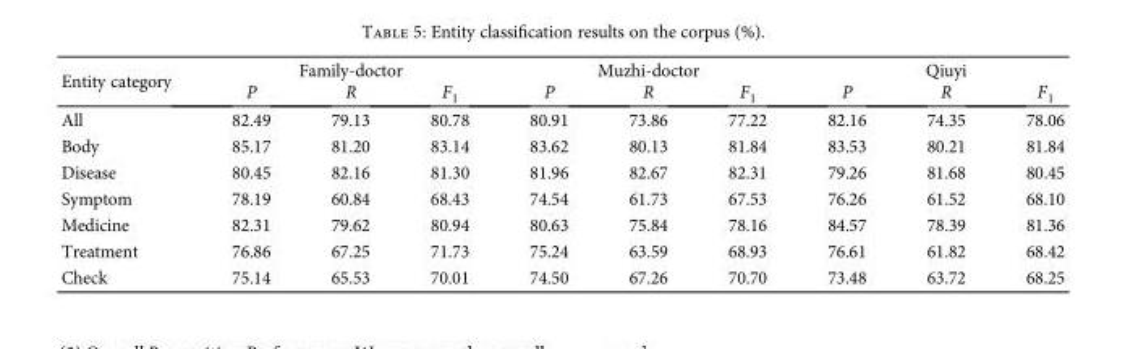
<table><thead><tr><td rowspan="2">Entity category</td><td colspan="3">Family-doctor</td><td colspan="3">Muzhi-doctor</td><td colspan="3">Qiuyi</td></tr><tr><td>P</td><td>R</td><td>F<sub>1</sub></td><td>P</td><td>R</td><td>F<sub>1</sub></td><td>P</td><td>R</td><td>F<sub>1</sub></td></tr></thead><tbody><tr><td>All</td><td>82.49</td><td>79.13</td><td>80.78</td><td>80.91</td><td>73.86</td><td>77.22</td><td>82.16</td><td>74.35</td><td>78.06</td></tr><tr><td>Body</td><td>85.17</td><td>81.20</td><td>83.14</td><td>83.62</td><td>80.13</td><td>81.84</td><td>83.53</td><td>80.21</td><td>81.84</td></tr><tr><td>Disease</td><td>80.45</td><td>82.16</td><td>81.30</td><td>81.96</td><td>82.67</td><td>82.31</td><td>79.26</td><td>81.68</td><td>80.45</td></tr><tr><td>Symptom</td><td>78.19</td><td>60.84</td><td>68.43</td><td>74.54</td><td>61.73</td><td>67.53</td><td>76.26</td><td>61.52</td><td>68.10</td></tr><tr><td>Medicine</td><td>82.31</td><td>79.62</td><td>80.94</td><td>80.63</td><td>75.84</td><td>78.16</td><td>84.57</td><td>78.39</td><td>81.36</td></tr><tr><td>Treatment</td><td>76.86</td><td>67.25</td><td>71.73</td><td>75.24</td><td>63.59</td><td>68.93</td><td>76.61</td><td>61.82</td><td>68.42</td></tr><tr><td>Check</td><td>75.14</td><td>65.53</td><td>70.01</td><td>74.50</td><td>67.26</td><td>70.70</td><td>73.48</td><td>63.72</td><td>68.25</td></tr></tbody></table>